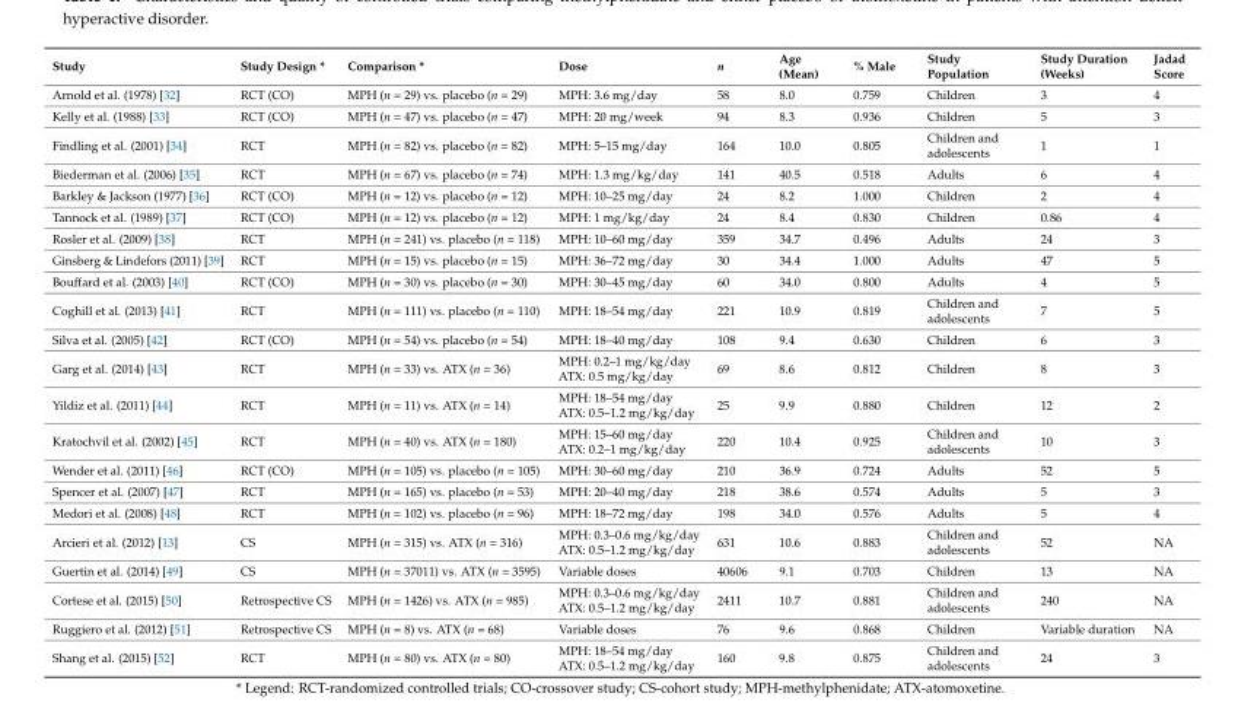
<table><thead><tr><td>Study</td><td>Study Design *</td><td>Comparison *</td><td>Dose</td><td>n</td><td>Age (Mean)</td><td>% Male</td><td>Study Population</td><td>Study Duration (Weeks)</td><td>Jadad Score</td></tr></thead><tbody><tr><td>Arnold et al. (1978) [32]</td><td>RCT (CO)</td><td>MPH (n = 29) vs. placebo (n = 29)</td><td>MPH: 3.6 mg/day</td><td>58</td><td>8.0</td><td>0.759</td><td>Children</td><td>3</td><td>4</td></tr><tr><td>Kelly et al. (1988) [33]</td><td>RCT (CO)</td><td>MPH (n = 47) vs. placebo (n = 47)</td><td>MPH: 20 mg/week</td><td>94</td><td>8.3</td><td>0.936</td><td>Children</td><td>5</td><td>3</td></tr><tr><td>Findling et al. (2001) [34]</td><td>RCT</td><td>MPH (n = 82) vs. placebo (n = 82)</td><td>MPH: 5–15 mg/day</td><td>164</td><td>10.0</td><td>0.805</td><td>Children and adolescents</td><td>1</td><td>1</td></tr><tr><td>Biederman et al. (2006) [35]</td><td>RCT</td><td>MPH (n = 67) vs. placebo (n = 74)</td><td>MPH: 1.3 mg/kg/day</td><td>141</td><td>40.5</td><td>0.518</td><td>Adults</td><td>6</td><td>4</td></tr><tr><td>Barkley &amp; Jackson (1977) [36]</td><td>RCT (CO)</td><td>MPH (n = 12) vs. placebo (n = 12)</td><td>MPH: 10–25 mg/day</td><td>24</td><td>8.2</td><td>1.000</td><td>Children</td><td>2</td><td>4</td></tr><tr><td>Tannock et al. (1989) [37]</td><td>RCT (CO)</td><td>MPH (n = 12) vs. placebo (n = 12)</td><td>MPH: 1 mg/kg/day</td><td>24</td><td>8.4</td><td>0.830</td><td>Children</td><td>0.86</td><td>4</td></tr><tr><td>Rosler et al. (2009) [38]</td><td>RCT</td><td>MPH (n = 241) vs. placebo (n = 118)</td><td>MPH: 10–60 mg/day</td><td>359</td><td>34.7</td><td>0.496</td><td>Adults</td><td>24</td><td>3</td></tr><tr><td>Ginsberg &amp; Lindefors (2011) [39]</td><td>RCT</td><td>MPH (n = 15) vs. placebo (n = 15)</td><td>MPH: 36–72 mg/day</td><td>30</td><td>34.4</td><td>1.000</td><td>Adults</td><td>47</td><td>5</td></tr><tr><td>Bouffard et al. (2003) [40]</td><td>RCT (CO)</td><td>MPH (n = 30) vs. placebo (n = 30)</td><td>MPH: 30–45 mg/day</td><td>60</td><td>34.0</td><td>0.800</td><td>Adults</td><td>4</td><td>5</td></tr><tr><td>Coghill et al. (2013) [41]</td><td>RCT</td><td>MPH (n = 111) vs. placebo (n = 110)</td><td>MPH: 18–54 mg/day</td><td>221</td><td>10.9</td><td>0.819</td><td>Children and adolescents</td><td>7</td><td>5</td></tr><tr><td>Silva et al. (2005) [42]</td><td>RCT (CO)</td><td>MPH (n = 54) vs. placebo (n = 54)</td><td>MPH: 18–40 mg/day</td><td>108</td><td>9.4</td><td>0.630</td><td>Children</td><td>6</td><td>3</td></tr><tr><td>Garg et al. (2014) [43]</td><td>RCT</td><td>MPH (n = 33) vs. ATX (n = 36)</td><td>MPH: 0.2–1 mg/kg/day ATX: 0.5 mg/kg/day</td><td>69</td><td>8.6</td><td>0.812</td><td>Children</td><td>8</td><td>3</td></tr><tr><td>Yildiz et al. (2011) [44]</td><td>RCT</td><td>MPH (n = 11) vs. ATX (n = 14)</td><td>MPH: 18–54 mg/day ATX: 0.5–1.2 mg/kg/day</td><td>25</td><td>9.9</td><td>0.880</td><td>Children</td><td>12</td><td>2</td></tr><tr><td>Kratochvil et al. (2002) [45]</td><td>RCT</td><td>MPH (n = 40) vs. ATX (n = 180)</td><td>MPH: 15–60 mg/day ATX: 0.2–1 mg/kg/day</td><td>220</td><td>10.4</td><td>0.925</td><td>Children and adolescents</td><td>10</td><td>3</td></tr><tr><td>Wender et al. (2011) [46]</td><td>RCT (CO)</td><td>MPH (n = 105) vs. placebo (n = 105)</td><td>MPH: 30–60 mg/day</td><td>210</td><td>36.9</td><td>0.724</td><td>Adults</td><td>52</td><td>5</td></tr><tr><td>Spencer et al. (2007) [47]</td><td>RCT</td><td>MPH (n = 165) vs. placebo (n = 53)</td><td>MPH: 20–40 mg/day</td><td>218</td><td>38.6</td><td>0.574</td><td>Adults</td><td>5</td><td>3</td></tr><tr><td>Medori et al. (2008) [48]</td><td>RCT</td><td>MPH (n = 102) vs. placebo (n = 96)</td><td>MPH: 18–72 mg/day</td><td>198</td><td>34.0</td><td>0.576</td><td>Adults</td><td>5</td><td>4</td></tr><tr><td>Arcieri et al. (2012) [13]</td><td>CS</td><td>MPH (n = 315) vs. ATX (n = 316)</td><td>MPH: 0.3–0.6 mg/kg/day ATX: 0.5–1.2 mg/kg/day</td><td>631</td><td>10.6</td><td>0.883</td><td>Children and adolescents</td><td>52</td><td>NA</td></tr><tr><td>Guertin et al. (2014) [49]</td><td>CS</td><td>MPH (n = 37011) vs. ATX (n = 3595)</td><td>Variable doses</td><td>40606</td><td>9.1</td><td>0.703</td><td>Children</td><td>13</td><td>NA</td></tr><tr><td>Cortese et al. (2015) [50]</td><td>Retrospective CS</td><td>MPH (n = 1426) vs. ATX (n = 985)</td><td>MPH: 0.3–0.6 mg/kg/day ATX: 0.5–1.2 mg/kg/day</td><td>2411</td><td>10.7</td><td>0.881</td><td>Children and adolescents</td><td>240</td><td>NA</td></tr><tr><td>Ruggiero et al. (2012) [51]</td><td>Retrospective CS</td><td>MPH (n = 8) vs. ATX (n = 68)</td><td>Variable doses</td><td>76</td><td>9.6</td><td>0.868</td><td>Children</td><td>Variable duration</td><td>NA</td></tr><tr><td>Shang et al. (2015) [52]</td><td>RCT</td><td>MPH (n = 80) vs. ATX (n = 80)</td><td>MPH: 18–54 mg/day ATX: 0.5–1.2 mg/kg/day</td><td>160</td><td>9.8</td><td>0.875</td><td>Children and adolescents</td><td>24</td><td>3</td></tr></tbody></table>